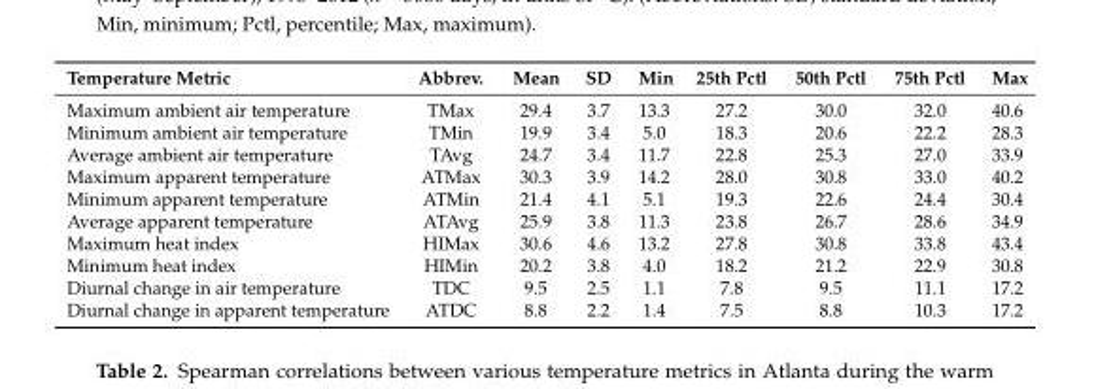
<table><thead><tr><td>Temperature Metric</td><td>Abbrev.</td><td>Mean</td><td>SD</td><td>Min</td><td>25th Pctl</td><td>50th Pctl</td><td>75th Pctl</td><td>Max</td></tr></thead><tbody><tr><td>Maximum ambient air temperature</td><td>TMax</td><td>29.4</td><td>3.7</td><td>13.3</td><td>27.2</td><td>30.0</td><td>32.0</td><td>40.6</td></tr><tr><td>Minimum ambient air temperature</td><td>TMin</td><td>19.9</td><td>3.4</td><td>5.0</td><td>18.3</td><td>20.6</td><td>22.2</td><td>28.3</td></tr><tr><td>Average ambient air temperature</td><td>TAvg</td><td>24.7</td><td>3.4</td><td>11.7</td><td>22.8</td><td>25.3</td><td>27.0</td><td>33.9</td></tr><tr><td>Maximum apparent temperature</td><td>ATMax</td><td>30.3</td><td>3.9</td><td>14.2</td><td>28.0</td><td>30.8</td><td>33.0</td><td>40.2</td></tr><tr><td>Minimum apparent temperature</td><td>ATMin</td><td>21.4</td><td>4.1</td><td>5.1</td><td>19.3</td><td>22.6</td><td>24.4</td><td>30.4</td></tr><tr><td>Average apparent temperature</td><td>ATAvg</td><td>25.9</td><td>3.8</td><td>11.3</td><td>23.8</td><td>26.7</td><td>28.6</td><td>34.9</td></tr><tr><td>Maximum heat index</td><td>HIMax</td><td>30.6</td><td>4.6</td><td>13.2</td><td>27.8</td><td>30.8</td><td>33.8</td><td>43.4</td></tr><tr><td>Minimum heat index</td><td>HIMin</td><td>20.2</td><td>3.8</td><td>4.0</td><td>18.2</td><td>21.2</td><td>22.9</td><td>30.8</td></tr><tr><td>Diurnal change in air temperature</td><td>TDC</td><td>9.5</td><td>2.5</td><td>1.1</td><td>7.8</td><td>9.5</td><td>11.1</td><td>17.2</td></tr><tr><td>Diurnal change in apparent temperature</td><td>ATDC</td><td>8.8</td><td>2.2</td><td>1.4</td><td>7.5</td><td>8.8</td><td>10.3</td><td>17.2</td></tr></tbody></table>